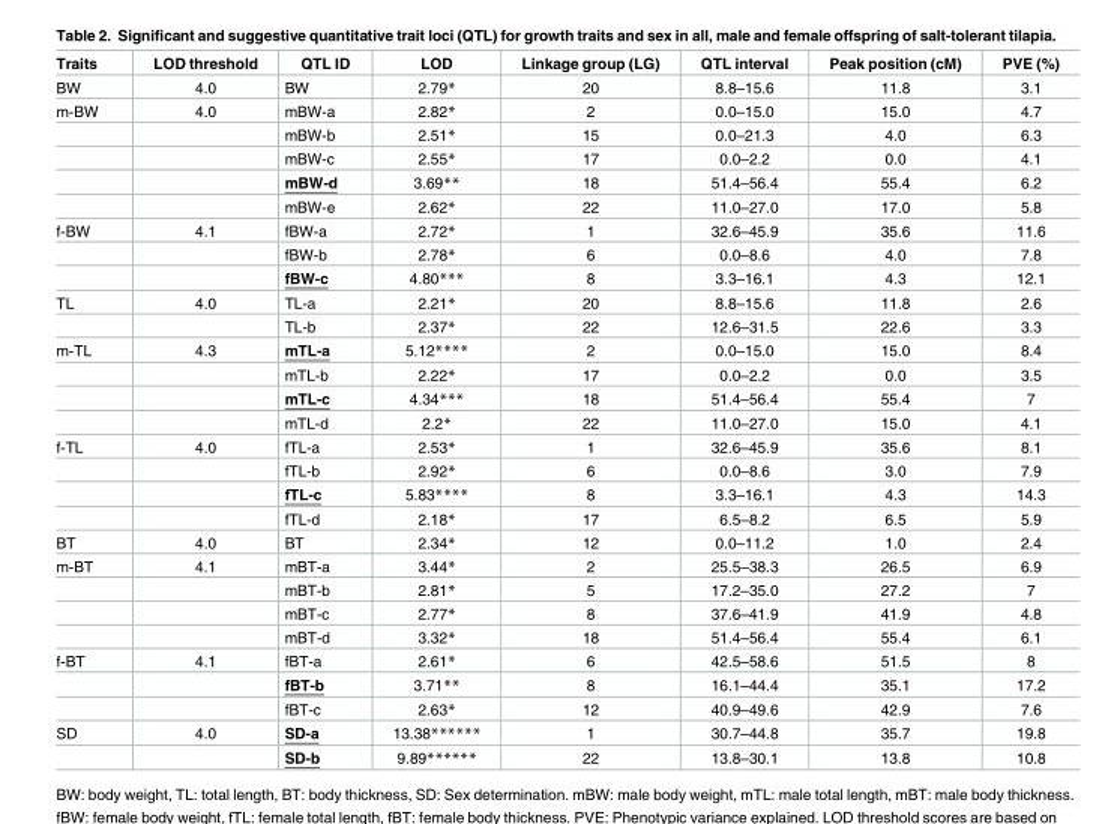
<table><thead><tr><td>Traits</td><td>LOD threshold</td><td>QTL ID</td><td>LOD</td><td>Linkage group (LG)</td><td>QTL interval</td><td>Peak position (cM)</td><td>PVE (%)</td></tr></thead><tbody><tr><td>BW</td><td>4.0</td><td>BW</td><td>2.79*</td><td>20</td><td>8.8–15.6</td><td>11.8</td><td>3.1</td></tr><tr><td rowspan="5">m-BW</td><td>4.0</td><td>mBW-a</td><td>2.82*</td><td>2</td><td>0.0–15.0</td><td>15.0</td><td>4.7</td></tr><tr><td></td><td>mBW-b</td><td>2.51*</td><td>15</td><td>0.0–21.3</td><td>4.0</td><td>6.3</td></tr><tr><td></td><td>mBW-c</td><td>2.55*</td><td>17</td><td>0.0–2.2</td><td>0.0</td><td>4.1</td></tr><tr><td></td><td>mBW-d</td><td>3.69**</td><td>18</td><td>51.4–56.4</td><td>55.4</td><td>6.2</td></tr><tr><td></td><td>mBW-e</td><td>2.62*</td><td>22</td><td>11.0–27.0</td><td>17.0</td><td>5.8</td></tr><tr><td rowspan="3">f-BW</td><td>4.1</td><td>fBW-a</td><td>2.72*</td><td>1</td><td>32.6–45.9</td><td>35.6</td><td>11.6</td></tr><tr><td></td><td>fBW-b</td><td>2.78*</td><td>6</td><td>0.0–8.6</td><td>4.0</td><td>7.8</td></tr><tr><td></td><td>fBW-c</td><td>4.80***</td><td>8</td><td>3.3–16.1</td><td>4.3</td><td>12.1</td></tr><tr><td rowspan="2">TL</td><td>4.0</td><td>TL-a</td><td>2.21*</td><td>20</td><td>8.8–15.6</td><td>11.8</td><td>2.6</td></tr><tr><td></td><td>TL-b</td><td>2.37*</td><td>22</td><td>12.6–31.5</td><td>22.6</td><td>3.3</td></tr><tr><td rowspan="4">m-TL</td><td>4.3</td><td>mTL-a</td><td>5.12****</td><td>2</td><td>0.0–15.0</td><td>15.0</td><td>8.4</td></tr><tr><td></td><td>mTL-b</td><td>2.22*</td><td>17</td><td>0.0–2.2</td><td>0.0</td><td>3.5</td></tr><tr><td></td><td>mTL-c</td><td>4.34***</td><td>18</td><td>51.4–56.4</td><td>55.4</td><td>7</td></tr><tr><td></td><td>mTL-d</td><td>2.2*</td><td>22</td><td>11.0–27.0</td><td>15.0</td><td>4.1</td></tr><tr><td rowspan="4">f-TL</td><td>4.0</td><td>fTL-a</td><td>2.53*</td><td>1</td><td>32.6–45.9</td><td>35.6</td><td>8.1</td></tr><tr><td></td><td>fTL-b</td><td>2.92*</td><td>6</td><td>0.0–8.6</td><td>3.0</td><td>7.9</td></tr><tr><td></td><td>fTL-c</td><td>5.83****</td><td>8</td><td>3.3–16.1</td><td>4.3</td><td>14.3</td></tr><tr><td></td><td>fTL-d</td><td>2.18*</td><td>17</td><td>6.5–8.2</td><td>6.5</td><td>5.9</td></tr><tr><td>BT</td><td>4.0</td><td>BT</td><td>2.34*</td><td>12</td><td>0.0–11.2</td><td>1.0</td><td>2.4</td></tr><tr><td rowspan="4">m-BT</td><td>4.1</td><td>mBT-a</td><td>3.44*</td><td>2</td><td>25.5–38.3</td><td>26.5</td><td>6.9</td></tr><tr><td></td><td>mBT-b</td><td>2.81*</td><td>5</td><td>17.2–35.0</td><td>27.2</td><td>7</td></tr><tr><td></td><td>mBT-c</td><td>2.77*</td><td>8</td><td>37.6–41.9</td><td>41.9</td><td>4.8</td></tr><tr><td></td><td>mBT-d</td><td>3.32*</td><td>18</td><td>51.4–56.4</td><td>55.4</td><td>6.1</td></tr><tr><td rowspan="3">f-BT</td><td>4.1</td><td>fBT-a</td><td>2.61*</td><td>6</td><td>42.5–58.6</td><td>51.5</td><td>8</td></tr><tr><td></td><td>fBT-b</td><td>3.71**</td><td>8</td><td>16.1–44.4</td><td>35.1</td><td>17.2</td></tr><tr><td></td><td>fBT-c</td><td>2.63*</td><td>12</td><td>40.9–49.6</td><td>42.9</td><td>7.6</td></tr><tr><td rowspan="2">SD</td><td>4.0</td><td>SD-a</td><td>13.38******</td><td>1</td><td>30.7–44.8</td><td>35.7</td><td>19.8</td></tr><tr><td></td><td>SD-b</td><td>9.89******</td><td>22</td><td>13.8–30.1</td><td>13.8</td><td>10.8</td></tr></tbody></table>